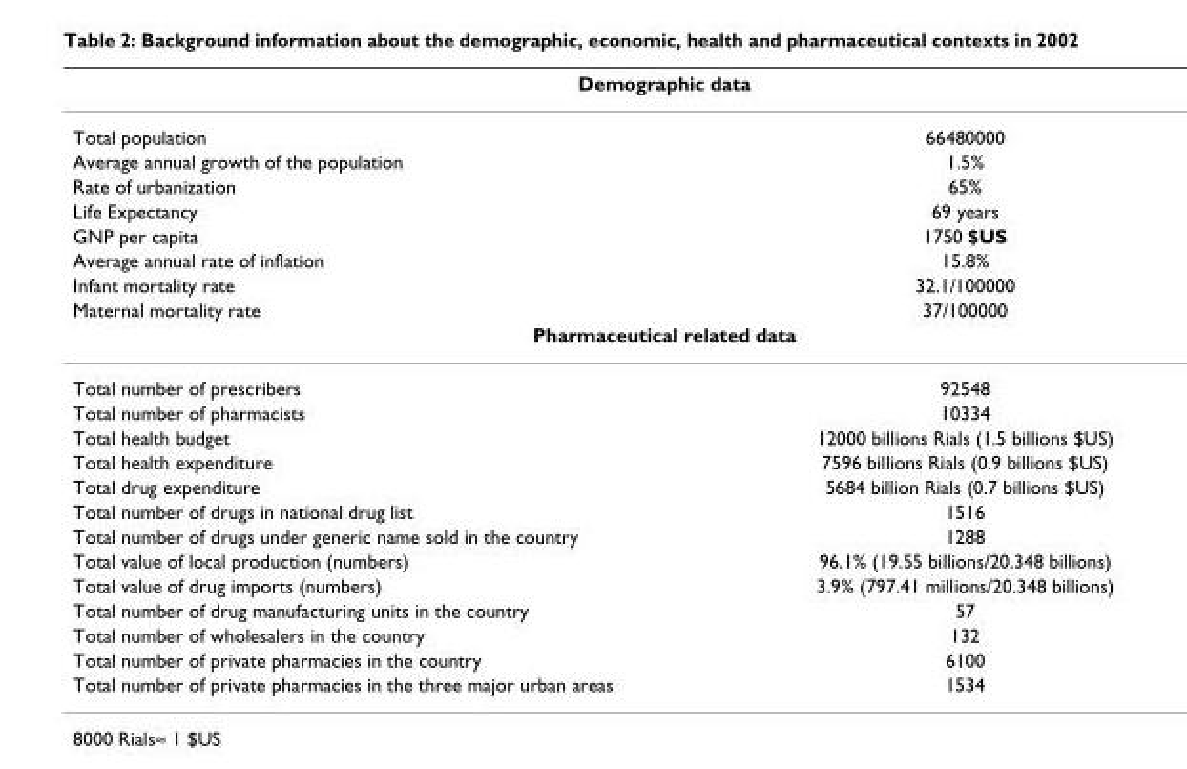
<table><thead><tr><td colspan="2">Demographic data</td></tr><tr><td>Total population</td><td>66480000</td></tr></thead><tbody><tr><td>Average annual growth of the population</td><td>1.5%</td></tr><tr><td>Rate of urbanization</td><td>65%</td></tr><tr><td>Life Expectancy</td><td>69 years</td></tr><tr><td>GNP per capita</td><td>1750 $US</td></tr><tr><td>Average annual rate of inflation</td><td>15.8%</td></tr><tr><td>Infant mortality rate</td><td>32.1/100000</td></tr><tr><td>Maternal mortality rate</td><td>37/100000</td></tr><tr><td colspan="2">Pharmaceutical related data</td></tr><tr><td>Total number of prescribers</td><td>92548</td></tr><tr><td>Total number of pharmacists</td><td>10334</td></tr><tr><td>Total health budget</td><td>12000 billions Rials (1.5 billions $US)</td></tr><tr><td>Total health expenditure</td><td>7596 billions Rials (0.9 billions $US)</td></tr><tr><td>Total drug expenditure</td><td>5684 billion Rials (0.7 billions $US)</td></tr><tr><td>Total number of drugs in national drug list</td><td>1516</td></tr><tr><td>Total number of drugs under generic name sold in the country</td><td>1288</td></tr><tr><td>Total value of local production (numbers)</td><td>96.1% (19.55 billions/20.348 billions)</td></tr><tr><td>Total value of drug imports (numbers)</td><td>3.9% (797.41 millions/20.348 billions)</td></tr><tr><td>Total number of drug manufacturing units in the country</td><td>57</td></tr><tr><td>Total number of wholesalers in the country</td><td>132</td></tr><tr><td>Total number of private pharmacies in the country</td><td>6100</td></tr><tr><td>Total number of private pharmacies in the three major urban areas</td><td>1534</td></tr></tbody></table>